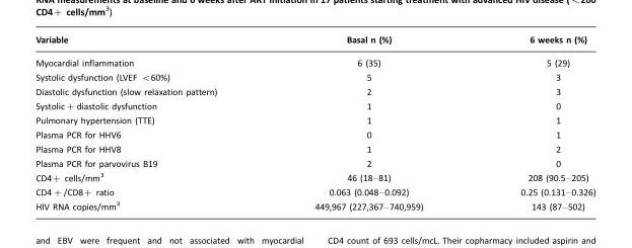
<table><thead><tr><td>Variable</td><td>Basal n (%)</td><td>6 weeks n (%)</td></tr></thead><tbody><tr><td>Myocardial inflammation</td><td>6 (35)</td><td>5 (29)</td></tr><tr><td>Systolic dysfunction (LVEF &lt;60%)</td><td>5</td><td>3</td></tr><tr><td>Diastolic dysfunction (slow relaxation pattern)</td><td>2</td><td>3</td></tr><tr><td>Systolic+diastolic dysfunction</td><td>1</td><td>0</td></tr><tr><td>Pulmonary hypertension (TTE)</td><td>1</td><td>1</td></tr><tr><td>Plasma PCR for HHV6</td><td>0</td><td>1</td></tr><tr><td>Plasma PCR for HHV8</td><td>1</td><td>2</td></tr><tr><td>Plasma PCR for parvovirus B19</td><td>2</td><td>0</td></tr><tr><td>CD4+ cells/mm3</td><td>46 (18–81)</td><td>208 (90.5–205)</td></tr><tr><td>CD4+/CD8+ ratio</td><td>0.063 (0.048–0.092)</td><td>0.25 (0.131–0.326)</td></tr><tr><td>HIV RNA copies/mm3</td><td>449,967 (227,367–740,959)</td><td>143 (87–502)</td></tr></tbody></table>